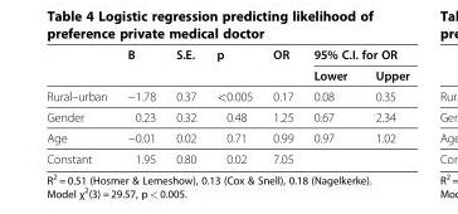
<table><thead><tr><td rowspan="2"></td><td rowspan="2">B</td><td rowspan="2">S.E.</td><td rowspan="2">p</td><td rowspan="2">OR</td><td colspan="2">95% C.I. for OR</td></tr><tr><td>Lower</td><td>Upper</td></tr></thead><tbody><tr><td>Rural–urban</td><td>−1.78</td><td>0.37</td><td>&lt;0.005</td><td>0.17</td><td>0.08</td><td>0.35</td></tr><tr><td>Gender</td><td>0.23</td><td>0.32</td><td>0.48</td><td>1.25</td><td>0.67</td><td>2.34</td></tr><tr><td>Age</td><td>−0.01</td><td>0.02</td><td>0.71</td><td>0.99</td><td>0.97</td><td>1.02</td></tr><tr><td>Constant</td><td>1.95</td><td>0.80</td><td>0.02</td><td>7.05</td><td></td><td></td></tr></tbody></table>